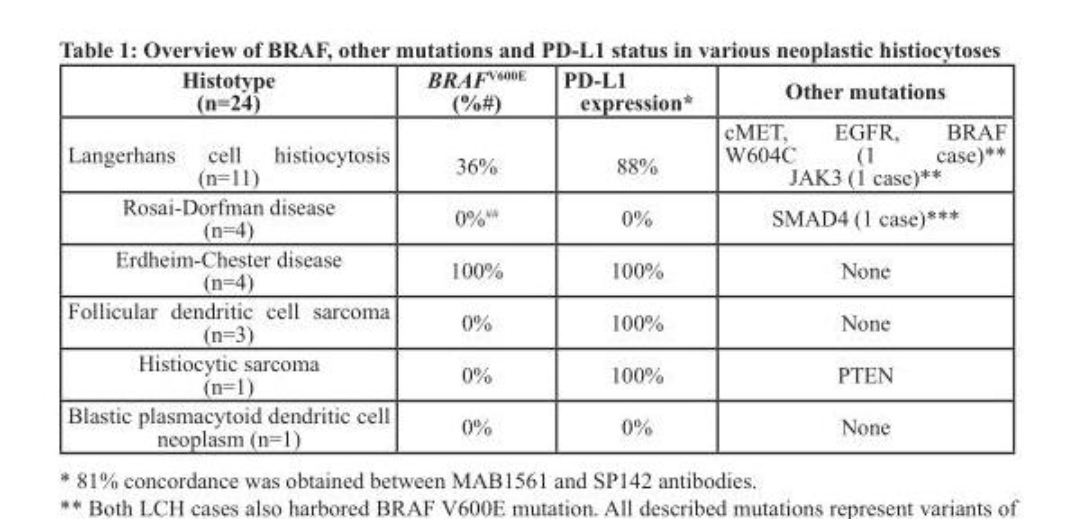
<table><thead><tr><td>Histotype (n=24)</td><td>BRAF<sup>V600E</sup> (%#)</td><td>PD-L1 expression*</td><td>Other mutations</td></tr></thead><tbody><tr><td>Langerhans cell histiocytosis (n=11)</td><td>36%</td><td>88%</td><td>cMET, EGFR, BRAF W604C (1 case)** JAK3 (1 case)**</td></tr><tr><td>Rosai-Dorfman disease (n=4)</td><td>0%<sup>##</sup></td><td>0%</td><td>SMAD4 (1 case)***</td></tr><tr><td>Erdheim-Chester disease (n=4)</td><td>100%</td><td>100%</td><td>None</td></tr><tr><td>Follicular dendritic cell sarcoma (n=3)</td><td>0%</td><td>100%</td><td>None</td></tr><tr><td>Histiocytic sarcoma (n=1)</td><td>0%</td><td>100%</td><td>PTEN</td></tr><tr><td>Blastic plasmacytoid dendritic cell neoplasm (n=1)</td><td>0%</td><td>0%</td><td>None</td></tr></tbody></table>